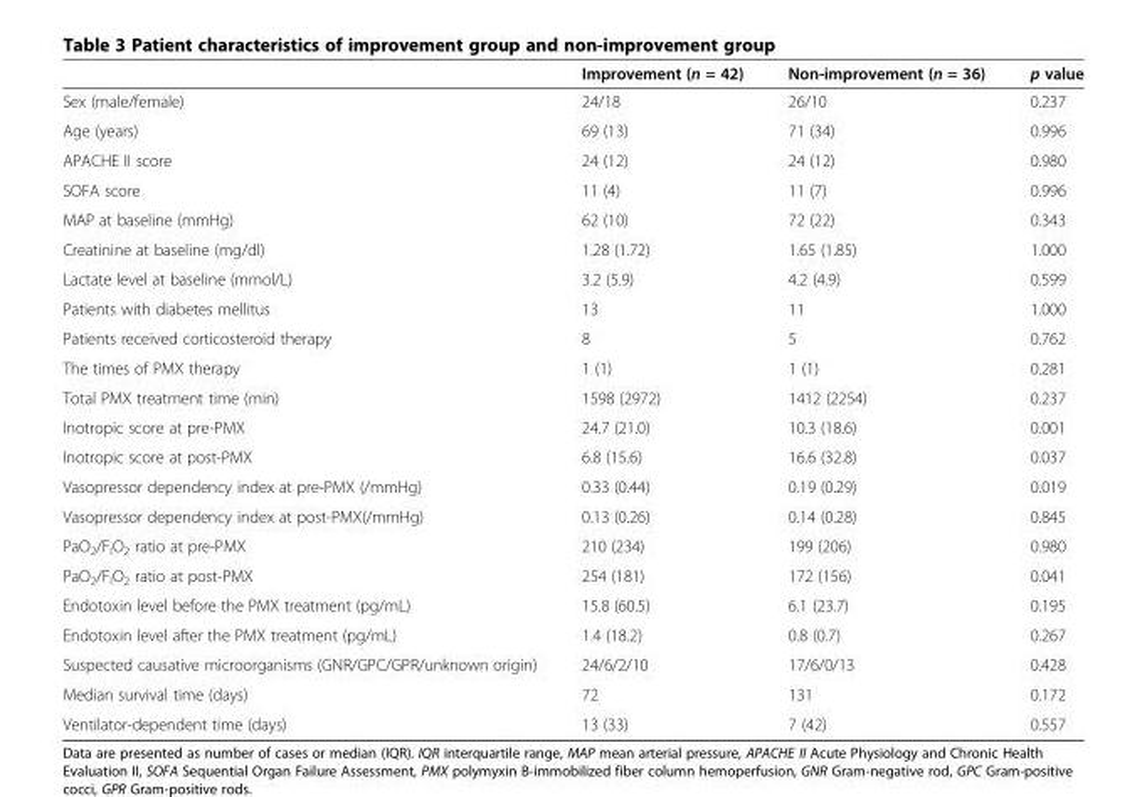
<table><thead><tr><td></td><td>Improvement (n = 42)</td><td>Non-improvement (n = 36)</td><td>p value</td></tr></thead><tbody><tr><td>Sex (male/female)</td><td>24/18</td><td>26/10</td><td>0.237</td></tr><tr><td>Age (years)</td><td>69 (13)</td><td>71 (34)</td><td>0.996</td></tr><tr><td>APACHE II score</td><td>24 (12)</td><td>24 (12)</td><td>0.980</td></tr><tr><td>SOFA score</td><td>11 (4)</td><td>11 (7)</td><td>0.996</td></tr><tr><td>MAP at baseline (mmHg)</td><td>62 (10)</td><td>72 (22)</td><td>0.343</td></tr><tr><td>Creatinine at baseline (mg/dl)</td><td>1.28 (1.72)</td><td>1.65 (1.85)</td><td>1.000</td></tr><tr><td>Lactate level at baseline (mmol/L)</td><td>3.2 (5.9)</td><td>4.2 (4.9)</td><td>0.599</td></tr><tr><td>Patients with diabetes mellitus</td><td>13</td><td>11</td><td>1.000</td></tr><tr><td>Patients received corticosteroid therapy</td><td>8</td><td>5</td><td>0.762</td></tr><tr><td>The times of PMX therapy</td><td>1 (1)</td><td>1 (1)</td><td>0.281</td></tr><tr><td>Total PMX treatment time (min)</td><td>1598 (2972)</td><td>1412 (2254)</td><td>0.237</td></tr><tr><td>Inotropic score at pre-PMX</td><td>24.7 (21.0)</td><td>10.3 (18.6)</td><td>0.001</td></tr><tr><td>Inotropic score at post-PMX</td><td>6.8 (15.6)</td><td>16.6 (32.8)</td><td>0.037</td></tr><tr><td>Vasopressor dependency index at pre-PMX (/mmHg)</td><td>0.33 (0.44)</td><td>0.19 (0.29)</td><td>0.019</td></tr><tr><td>Vasopressor dependency index at post-PMX(/mmHg)</td><td>0.13 (0.26)</td><td>0.14 (0.28)</td><td>0.845</td></tr><tr><td>PaO<sub>2</sub>/F<sub>I</sub>O<sub>2</sub> ratio at pre-PMX</td><td>210 (234)</td><td>199 (206)</td><td>0.980</td></tr><tr><td>PaO<sub>2</sub>/F<sub>I</sub>O<sub>2</sub> ratio at post-PMX</td><td>254 (181)</td><td>172 (156)</td><td>0.041</td></tr><tr><td>Endotoxin level before the PMX treatment (pg/mL)</td><td>15.8 (60.5)</td><td>6.1 (23.7)</td><td>0.195</td></tr><tr><td>Endotoxin level after the PMX treatment (pg/mL)</td><td>1.4 (18.2)</td><td>0.8 (0.7)</td><td>0.267</td></tr><tr><td>Suspected causative microorganisms (GNR/GPC/GPR/unknown origin)</td><td>24/6/2/10</td><td>17/6/0/13</td><td>0.428</td></tr><tr><td>Median survival time (days)</td><td>72</td><td>131</td><td>0.172</td></tr><tr><td>Ventilator-dependent time (days)</td><td>13 (33)</td><td>7 (42)</td><td>0.557</td></tr></tbody></table>